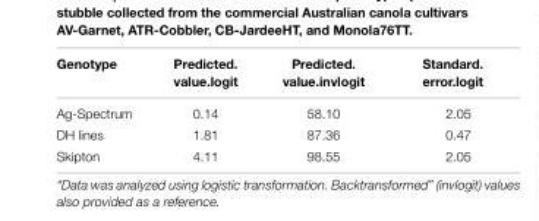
<table><thead><tr><td>Genotype</td><td>Predicted. value.logit</td><td>Predicted. value.invlogit</td><td>Standard. error.logit</td></tr></thead><tbody><tr><td>Ag-Spectrum</td><td>0.14</td><td>58.10</td><td>2.05</td></tr><tr><td>DH lines</td><td>1.81</td><td>87.36</td><td>0.47</td></tr><tr><td>Skipton</td><td>4.11</td><td>98.55</td><td>2.05</td></tr></tbody></table>